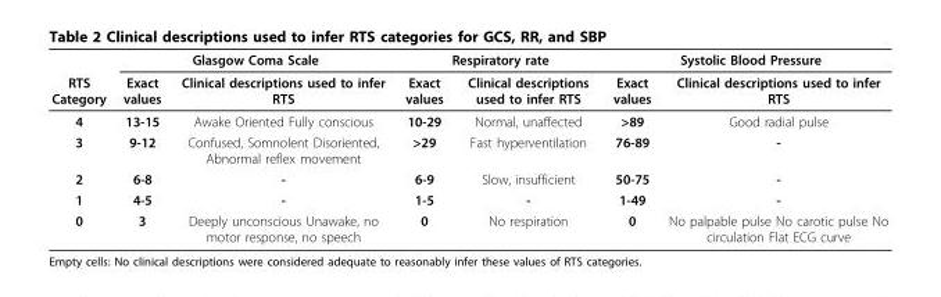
<table><thead><tr><td rowspan="2">RTS Category</td><td colspan="2">Glasgow Coma Scale</td><td colspan="2">Respiratory rate</td><td colspan="2">Systolic Blood Pressure</td></tr><tr><td>Exact values</td><td>Clinical descriptions used to infer RTS</td><td>Exact values</td><td>Clinical descriptions used to infer RTS</td><td>Exact values</td><td>Clinical descriptions used to infer RTS</td></tr></thead><tbody><tr><td>4</td><td>13-15</td><td>Awake Oriented Fully conscious</td><td>10-29</td><td>Normal, unaffected</td><td>&gt;89</td><td>Good radial pulse</td></tr><tr><td>3</td><td>9-12</td><td>Confused, Somnolent Disoriented, Abnormal reflex movement</td><td>&gt;29</td><td>Fast hyperventilation</td><td>76-89</td><td>-</td></tr><tr><td>2</td><td>6-8</td><td>-</td><td>6-9</td><td>Slow, insufficient</td><td>50-75</td><td>-</td></tr><tr><td>1</td><td>4-5</td><td>-</td><td>1-5</td><td>-</td><td>1-49</td><td>-</td></tr><tr><td>0</td><td>3</td><td>Deeply unconscious Unawake, no motor response, no speech</td><td>0</td><td>No respiration</td><td>0</td><td>No palpable pulse No carotic pulse No circulation Flat ECG curve</td></tr></tbody></table>